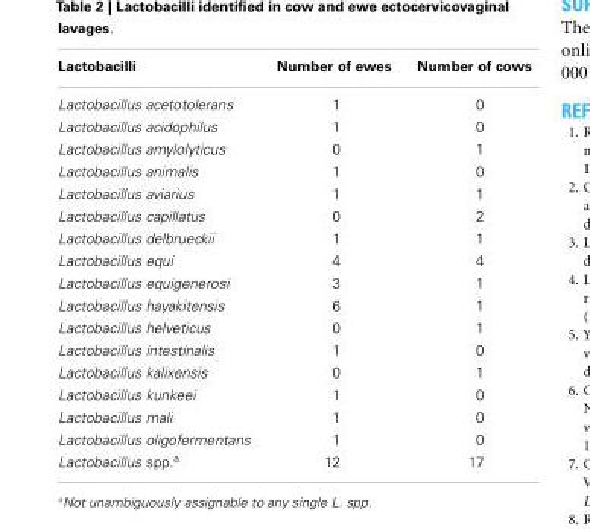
<table><thead><tr><td>Lactobacilli</td><td>Number of ewes</td><td>Number of cows</td></tr></thead><tbody><tr><td>Lactobacillus acetotolerans</td><td>1</td><td>0</td></tr><tr><td>Lactobacillus acidophilus</td><td>1</td><td>0</td></tr><tr><td>Lactobacillus amylolyticus</td><td>0</td><td>1</td></tr><tr><td>Lactobacillus animalis</td><td>1</td><td>0</td></tr><tr><td>Lactobacillus aviarius</td><td>1</td><td>1</td></tr><tr><td>Lactobacillus capillatus</td><td>0</td><td>2</td></tr><tr><td>Lactobacillus delbrueckii</td><td>1</td><td>1</td></tr><tr><td>Lactobacillus equi</td><td>4</td><td>4</td></tr><tr><td>Lactobacillus equigenerosi</td><td>3</td><td>1</td></tr><tr><td>Lactobacillus hayakitensis</td><td>6</td><td>1</td></tr><tr><td>Lactobacillus helveticus</td><td>0</td><td>1</td></tr><tr><td>Lactobacillus intestinalis</td><td>1</td><td>0</td></tr><tr><td>Lactobacillus kalixensis</td><td>0</td><td>1</td></tr><tr><td>Lactobacillus kunkeei</td><td>1</td><td>0</td></tr><tr><td>Lactobacillus mali</td><td>1</td><td>0</td></tr><tr><td>Lactobacillus oligofermentans</td><td>1</td><td>0</td></tr><tr><td>Lactobacillus spp.<sup>a</sup></td><td>12</td><td>17</td></tr></tbody></table>